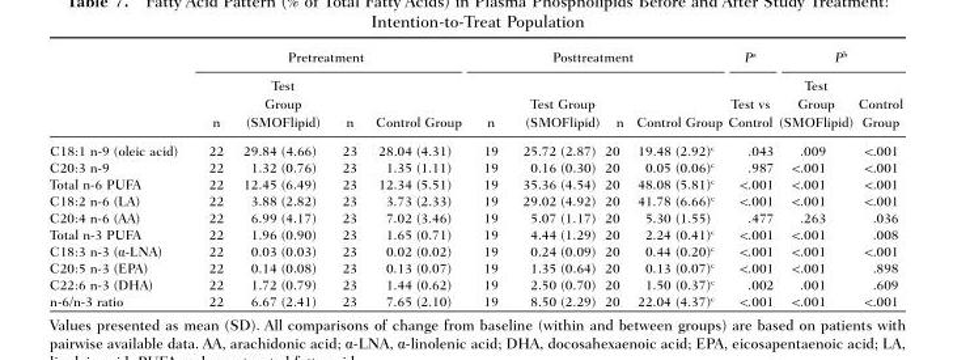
<table><thead><tr><td rowspan="2"></td><td colspan="4">Pretreatment</td><td colspan="4">Posttreatment</td><td rowspan="2">P<sup>a</sup> Test vs Control</td><td colspan="2">P<sup>b</sup></td></tr><tr><td>n</td><td>Test Group (SMOFlipid)</td><td>n</td><td>Control Group</td><td>n</td><td>Test Group (SMOFlipid)</td><td>n</td><td>Control Group</td><td>Test Group (SMOFlipid)</td><td>Control Group</td></tr></thead><tbody><tr><td>C18:1 n-9 (oleic acid)</td><td>22</td><td>29.84 (4.66)</td><td>23</td><td>28.04 (4.31)</td><td>19</td><td>25.72 (2.87)</td><td>20</td><td>19.48 (2.92)<sup>c</sup></td><td>.043</td><td>.009</td><td>&lt;.001</td></tr><tr><td>C20:3 n-9</td><td>22</td><td>1.32 (0.76)</td><td>23</td><td>1.35 (1.11)</td><td>19</td><td>0.16 (0.30)</td><td>20</td><td>0.05 (0.06)<sup>c</sup></td><td>.987</td><td>&lt;.001</td><td>&lt;.001</td></tr><tr><td>Total n-6 PUFA</td><td>22</td><td>12.45 (6.49)</td><td>23</td><td>12.34 (5.51)</td><td>19</td><td>35.36 (4.54)</td><td>20</td><td>48.08 (5.81)<sup>c</sup></td><td>&lt;.001</td><td>&lt;.001</td><td>&lt;.001</td></tr><tr><td>C18:2 n-6 (LA)</td><td>22</td><td>3.88 (2.82)</td><td>23</td><td>3.73 (2.33)</td><td>19</td><td>29.02 (4.92)</td><td>20</td><td>41.78 (6.66)<sup>c</sup></td><td>&lt;.001</td><td>&lt;.001</td><td>&lt;.001</td></tr><tr><td>C20:4 n-6 (AA)</td><td>22</td><td>6.99 (4.17)</td><td>23</td><td>7.02 (3.46)</td><td>19</td><td>5.07 (1.17)</td><td>20</td><td>5.30 (1.55)</td><td>.477</td><td>.263</td><td>.036</td></tr><tr><td>Total n-3 PUFA</td><td>22</td><td>1.96 (0.90)</td><td>23</td><td>1.65 (0.71)</td><td>19</td><td>4.44 (1.29)</td><td>20</td><td>2.24 (0.41)<sup>c</sup></td><td>&lt;.001</td><td>&lt;.001</td><td>.008</td></tr><tr><td>C18:3 n-3 (α-LNA)</td><td>22</td><td>0.03 (0.03)</td><td>23</td><td>0.02 (0.02)</td><td>19</td><td>0.24 (0.09)</td><td>20</td><td>0.44 (0.20)<sup>c</sup></td><td>&lt;.001</td><td>&lt;.001</td><td>&lt;.001</td></tr><tr><td>C20:5 n-3 (EPA)</td><td>22</td><td>0.14 (0.08)</td><td>23</td><td>0.13 (0.07)</td><td>19</td><td>1.35 (0.64)</td><td>20</td><td>0.13 (0.07)<sup>c</sup></td><td>&lt;.001</td><td>&lt;.001</td><td>.898</td></tr><tr><td>C22:6 n-3 (DHA)</td><td>22</td><td>1.72 (0.79)</td><td>23</td><td>1.44 (0.62)</td><td>19</td><td>2.50 (0.70)</td><td>20</td><td>1.50 (0.37)<sup>c</sup></td><td>.002</td><td>.001</td><td>.609</td></tr><tr><td>n-6/n-3 ratio</td><td>22</td><td>6.67 (2.41)</td><td>23</td><td>7.65 (2.10)</td><td>19</td><td>8.50 (2.29)</td><td>20</td><td>22.04 (4.37)<sup>c</sup></td><td>&lt;.001</td><td>&lt;.001</td><td>&lt;.001</td></tr></tbody></table>